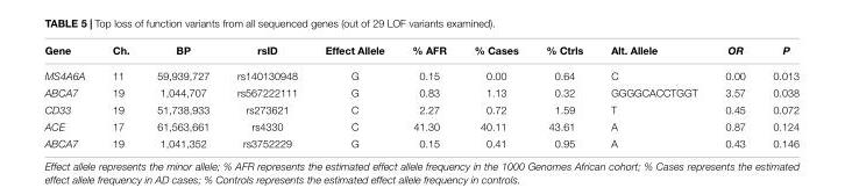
<table><thead><tr><td>Gene</td><td>Ch.</td><td>BP</td><td>rsID</td><td>Effect Allele</td><td>% AFR</td><td>% Cases</td><td>% Ctrls</td><td>Alt. Allele</td><td>OR</td><td>P</td></tr></thead><tbody><tr><td>MS4A6A</td><td>11</td><td>59,939,727</td><td>rs140130948</td><td>G</td><td>0.15</td><td>0.00</td><td>0.64</td><td>C</td><td>0.00</td><td>0.013</td></tr><tr><td>ABCA7</td><td>19</td><td>1,044,707</td><td>rs567222111</td><td>G</td><td>0.83</td><td>1.13</td><td>0.32</td><td>GGGGCACCTGGT</td><td>3.57</td><td>0.038</td></tr><tr><td>CD33</td><td>19</td><td>51,738,933</td><td>rs273621</td><td>C</td><td>2.27</td><td>0.72</td><td>1.59</td><td>T</td><td>0.45</td><td>0.072</td></tr><tr><td>ACE</td><td>17</td><td>61,563,661</td><td>rs4330</td><td>C</td><td>41.30</td><td>40.11</td><td>43.61</td><td>A</td><td>0.87</td><td>0.124</td></tr><tr><td>ABCA7</td><td>19</td><td>1,041,352</td><td>rs3752229</td><td>G</td><td>0.15</td><td>0.41</td><td>0.95</td><td>A</td><td>0.43</td><td>0.146</td></tr></tbody></table>